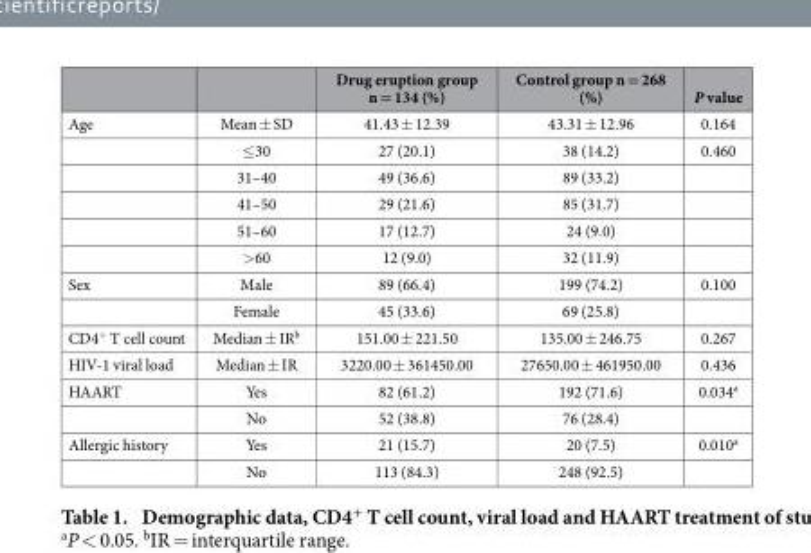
<table><thead><tr><td></td><td></td><td>Drug eruption group n = 134 (%)</td><td>Control group n = 268 (%)</td><td>P value</td></tr></thead><tbody><tr><td rowspan="6">Age</td><td>Mean ± SD</td><td>41.43 ± 12.39</td><td>43.31 ± 12.96</td><td>0.164</td></tr><tr><td>≤ 30</td><td>27 (20.1)</td><td>38 (14.2)</td><td>0.460</td></tr><tr><td>31–40</td><td>49 (36.6)</td><td>89 (33.2)</td><td></td></tr><tr><td>41–50</td><td>29 (21.6)</td><td>85 (31.7)</td><td></td></tr><tr><td>51–60</td><td>17 (12.7)</td><td>24 (9.0)</td><td></td></tr><tr><td>&gt; 60</td><td>12 (9.0)</td><td>32 (11.9)</td><td></td></tr><tr><td rowspan="2">Sex</td><td>Male</td><td>89 (66.4)</td><td>199 (74.2)</td><td>0.100</td></tr><tr><td>Female</td><td>45 (33.6)</td><td>69 (25.8)</td><td></td></tr><tr><td>CD4<sup>+</sup> T cell count</td><td>Median ± IR<sup>b</sup></td><td>151.00 ± 221.50</td><td>135.00 ± 246.75</td><td>0.267</td></tr><tr><td>HIV-1 viral load</td><td>Median ± IR</td><td>3220.00 ± 361450.00</td><td>27650.00 ± 461950.00</td><td>0.436</td></tr><tr><td rowspan="2">HAART</td><td>Yes</td><td>82 (61.2)</td><td>192 (71.6)</td><td>0.034<sup>a</sup></td></tr><tr><td>No</td><td>52 (38.8)</td><td>76 (28.4)</td><td></td></tr><tr><td rowspan="2">Allergic history</td><td>Yes</td><td>21 (15.7)</td><td>20 (7.5)</td><td>0.010<sup>a</sup></td></tr><tr><td>No</td><td>113 (84.3)</td><td>248 (92.5)</td><td></td></tr></tbody></table>